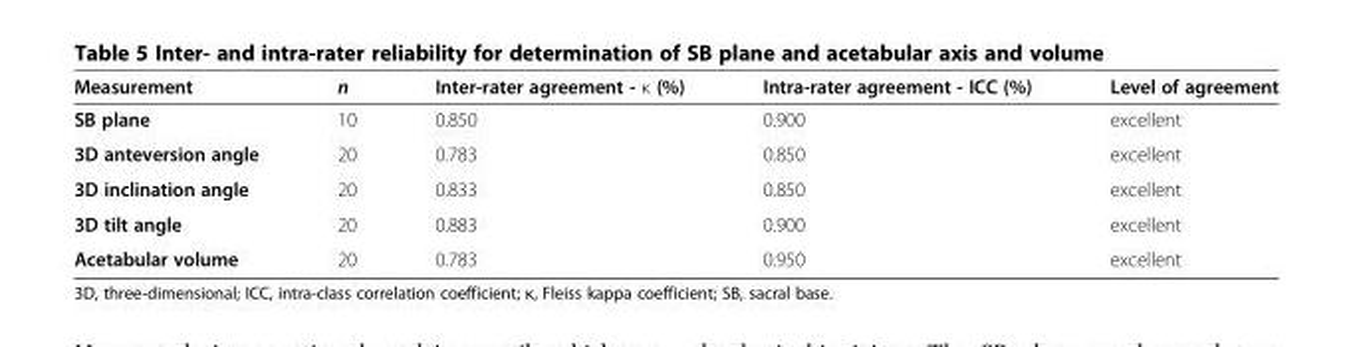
<table><thead><tr><td>Measurement</td><td>n</td><td>Inter-rater agreement - κ (%)</td><td>Intra-rater agreement - ICC (%)</td><td>Level of agreement</td></tr></thead><tbody><tr><td>SB plane</td><td>10</td><td>0.850</td><td>0.900</td><td>excellent</td></tr><tr><td>3D anteversion angle</td><td>20</td><td>0.783</td><td>0.850</td><td>excellent</td></tr><tr><td>3D inclination angle</td><td>20</td><td>0.833</td><td>0.850</td><td>excellent</td></tr><tr><td>3D tilt angle</td><td>20</td><td>0.883</td><td>0.900</td><td>excellent</td></tr><tr><td>Acetabular volume</td><td>20</td><td>0.783</td><td>0.950</td><td>excellent</td></tr></tbody></table>